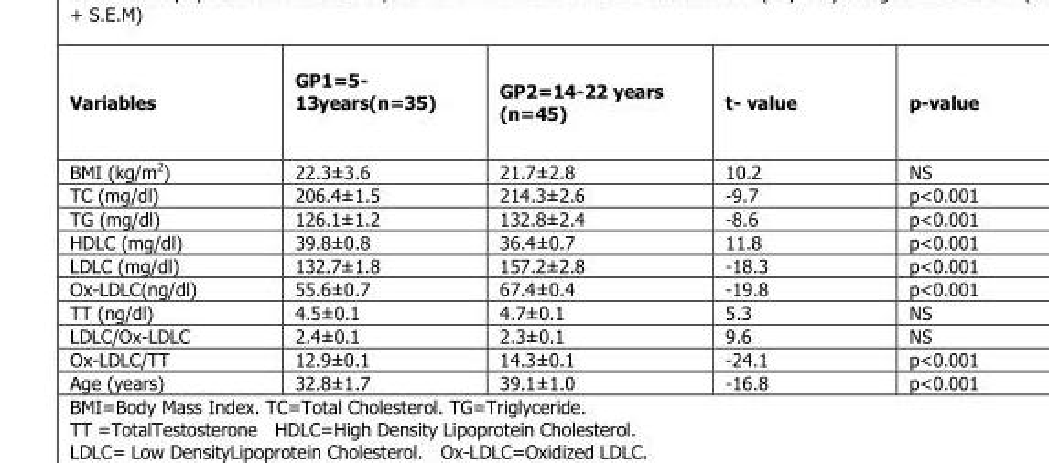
<table><thead><tr><td>Variables</td><td>GP1=5- 13years(n=35)</td><td>GP2=14-22 years (n=45)</td><td>t- value</td><td>p-value</td></tr></thead><tbody><tr><td>BMI (kg/m<sup>2</sup>)</td><td>22.3±3.6</td><td>21.7±2.8</td><td>10.2</td><td>NS</td></tr><tr><td>TC (mg/dl)</td><td>206.4±1.5</td><td>214.3±2.6</td><td>-9.7</td><td>p&lt;0.001</td></tr><tr><td>TG (mg/dl)</td><td>126.1±1.2</td><td>132.8±2.4</td><td>-8.6</td><td>p&lt;0.001</td></tr><tr><td>HDLC (mg/dl)</td><td>39.8±0.8</td><td>36.4±0.7</td><td>11.8</td><td>p&lt;0.001</td></tr><tr><td>LDLC (mg/dl)</td><td>132.7±1.8</td><td>157.2±2.8</td><td>-18.3</td><td>p&lt;0.001</td></tr><tr><td>Ox-LDLC(ng/dl)</td><td>55.6±0.7</td><td>67.4±0.4</td><td>-19.8</td><td>p&lt;0.001</td></tr><tr><td>TT (ng/dl)</td><td>4.5±0.1</td><td>4.7±0.1</td><td>5.3</td><td>NS</td></tr><tr><td>LDLC/Ox-LDLC</td><td>2.4±0.1</td><td>2.3±0.1</td><td>9.6</td><td>NS</td></tr><tr><td>Ox-LDLC/TT</td><td>12.9±0.1</td><td>14.3±0.1</td><td>-24.1</td><td>p&lt;0.001</td></tr><tr><td>Age (years)</td><td>32.8±1.7</td><td>39.1±1.0</td><td>-16.8</td><td>p&lt;0.001</td></tr></tbody></table>